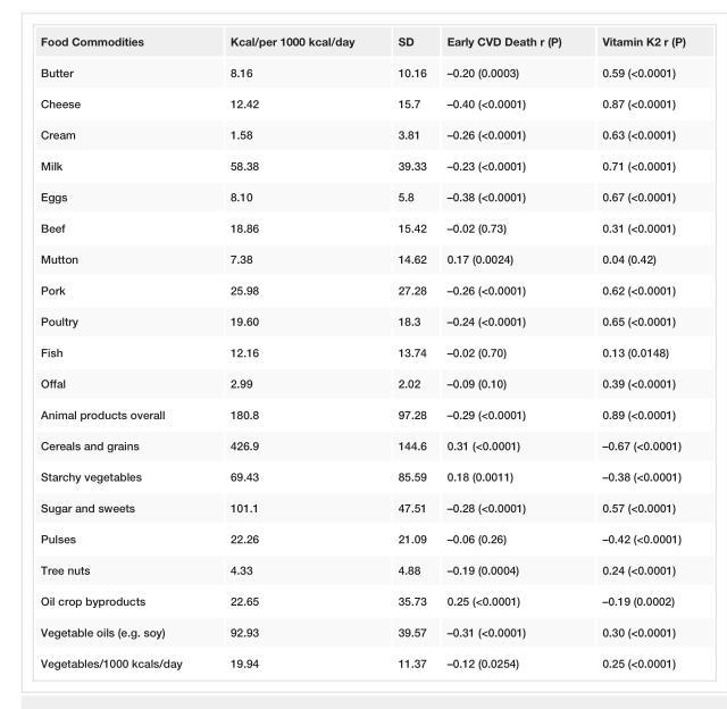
<table><tbody><tr><td>Food Commodities</td><td>Kcal/per 1000 kcal/day</td><td>SD</td><td>Early CVD Death r (P)</td><td>Vitamin K2 r (P)</td></tr><tr><td>Butter</td><td>8.16</td><td>10.16</td><td>–0.20 (0.0003)</td><td>0.59 (&lt;0.0001)</td></tr><tr><td>Cheese</td><td>12.42</td><td>15.7</td><td>–0.40 (&lt;0.0001)</td><td>0.87 (&lt;0.0001)</td></tr><tr><td>Cream</td><td>1.58</td><td>3.81</td><td>–0.26 (&lt;0.0001)</td><td>0.63 (&lt;0.0001)</td></tr><tr><td>Milk</td><td>58.38</td><td>39.33</td><td>–0.23 (&lt;0.0001)</td><td>0.71 (&lt;0.0001)</td></tr><tr><td>Eggs</td><td>8.10</td><td>5.8</td><td>–0.38 (&lt;0.0001)</td><td>0.67 (&lt;0.0001)</td></tr><tr><td>Beef</td><td>18.86</td><td>15.42</td><td>–0.02 (0.73)</td><td>0.31 (&lt;0.0001)</td></tr><tr><td>Mutton</td><td>7.38</td><td>14.62</td><td>0.17 (0.0024)</td><td>0.04 (0.42)</td></tr><tr><td>Pork</td><td>25.98</td><td>27.28</td><td>–0.26 (&lt;0.0001)</td><td>0.62 (&lt;0.0001)</td></tr><tr><td>Poultry</td><td>19.60</td><td>18.3</td><td>–0.24 (&lt;0.0001)</td><td>0.65 (&lt;0.0001)</td></tr><tr><td>Fish</td><td>12.16</td><td>13.74</td><td>–0.02 (0.70)</td><td>0.13 (0.0148)</td></tr><tr><td>Offal</td><td>2.99</td><td>2.02</td><td>–0.09 (0.10)</td><td>0.39 (&lt;0.0001)</td></tr><tr><td>Animal products overall</td><td>180.8</td><td>97.28</td><td>–0.29 (&lt;0.0001)</td><td>0.89 (&lt;0.0001)</td></tr><tr><td>Cereals and grains</td><td>426.9</td><td>144.6</td><td>0.31 (&lt;0.0001)</td><td>–0.67 (&lt;0.0001)</td></tr><tr><td>Starchy vegetables</td><td>69.43</td><td>85.59</td><td>0.18 (0.0011)</td><td>–0.38 (&lt;0.0001)</td></tr><tr><td>Sugar and sweets</td><td>101.1</td><td>47.51</td><td>–0.28 (&lt;0.0001)</td><td>0.57 (&lt;0.0001)</td></tr><tr><td>Pulses</td><td>22.26</td><td>21.09</td><td>–0.06 (0.26)</td><td>–0.42 (&lt;0.0001)</td></tr><tr><td>Tree nuts</td><td>4.33</td><td>4.88</td><td>–0.19 (0.0004)</td><td>0.24 (&lt;0.0001)</td></tr><tr><td>Oil crop byproducts</td><td>22.65</td><td>35.73</td><td>0.25 (&lt;0.0001)</td><td>–0.19 (0.0002)</td></tr><tr><td>Vegetable oils (e.g. soy)</td><td>92.93</td><td>39.57</td><td>–0.31 (&lt;0.0001)</td><td>0.30 (&lt;0.0001)</td></tr><tr><td>Vegetables/1000 kcals/day</td><td>19.94</td><td>11.37</td><td>–0.12 (0.0254)</td><td>0.25 (&lt;0.0001)</td></tr></tbody></table>